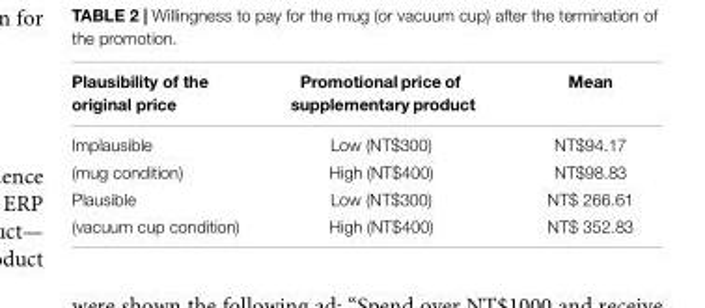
<table><thead><tr><td>Plausibility of the original price</td><td>Promotional price of supplementary product</td><td>Mean</td></tr></thead><tbody><tr><td>Implausible</td><td>Low (NT$300)</td><td>NT$94.17</td></tr><tr><td>(mug condition)</td><td>High (NT$400)</td><td>NT$98.83</td></tr><tr><td>Plausible</td><td>Low (NT$300)</td><td>NT$ 266.61</td></tr><tr><td>(vacuum cup condition)</td><td>High (NT$400)</td><td>NT$ 352.83</td></tr></tbody></table>